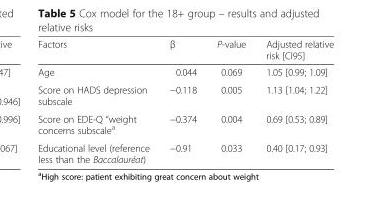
<table><thead><tr><td>Factors</td><td>β</td><td>P-value</td><td>Adjusted relative risk [CI95]</td></tr></thead><tbody><tr><td>Age</td><td>0.044</td><td>0.069</td><td>1.05 [0.99; 1.09]</td></tr><tr><td>Score on HADS depression subscale</td><td>−0.118</td><td>0.005</td><td>1.13 [1.04; 1.22]</td></tr><tr><td>Score on EDE-Q “weight concerns subscale<sup>a</sup></td><td>−0.374</td><td>0.004</td><td>0.69 [0.53; 0.89]</td></tr><tr><td>Educational level (reference less than the Baccalauréat)</td><td>−0.91</td><td>0.033</td><td>0.40 [0.17; 0.93]</td></tr></tbody></table>